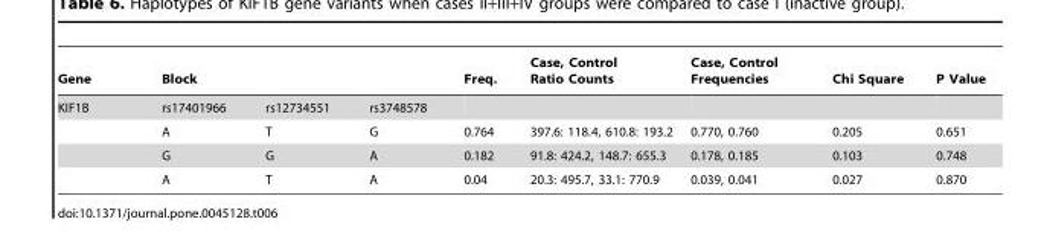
<table><thead><tr><td rowspan="2">Gene KIF1B</td><td colspan="3">Block</td><td rowspan="2">Freq.</td><td rowspan="2">Case, Control Ratio Counts</td><td rowspan="2">Case, Control Frequencies</td><td rowspan="2">Chi Square</td><td rowspan="2">P Value</td></tr><tr><td>rs17401966</td><td>rs12734551</td><td>rs3748578</td></tr></thead><tbody><tr><td></td><td>A</td><td>T</td><td>G</td><td>0.764</td><td>397.6: 118.4, 610.8: 193.2</td><td>0.770, 0.760</td><td>0.205</td><td>0.651</td></tr><tr><td></td><td>G</td><td>G</td><td>A</td><td>0.182</td><td>91.8: 424.2, 148.7: 655.3</td><td>0.178, 0.185</td><td>0.103</td><td>0.748</td></tr><tr><td></td><td>A</td><td>T</td><td>A</td><td>0.04</td><td>20.3: 495.7, 33.1: 770.9</td><td>0.039, 0.041</td><td>0.027</td><td>0.870</td></tr></tbody></table>